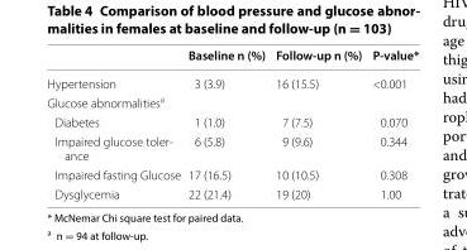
<table><thead><tr><td></td><td>Baseline n (%)</td><td>Follow-up n (%)</td><td>P-value*</td></tr></thead><tbody><tr><td>Hypertension</td><td>3 (3.9)</td><td>16 (15.5)</td><td>&lt;0.001</td></tr><tr><td colspan="4">Glucose abnormalities<sup>a</sup></td></tr><tr><td>Diabetes</td><td>1 (1.0)</td><td>7 (7.5)</td><td>0.070</td></tr><tr><td>Impaired glucose toler- ance</td><td>6 (5.8)</td><td>9 (9.6)</td><td>0.344</td></tr><tr><td>Impaired fasting Glucose</td><td>17 (16.5)</td><td>10 (10.5)</td><td>0.308</td></tr><tr><td>Dysglycemia</td><td>22 (21.4)</td><td>19 (20)</td><td>1.00</td></tr></tbody></table>